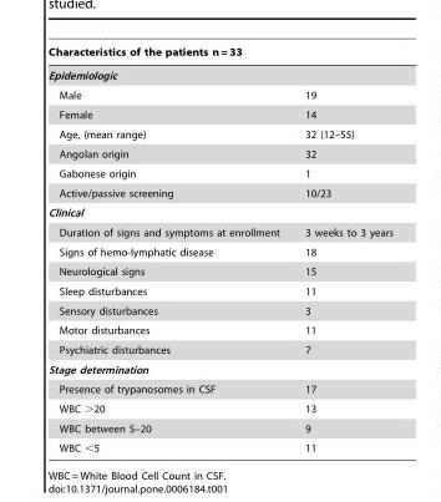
<table><thead><tr><td rowspan="2" colspan="2">Characteristics of the patients n = 33 Epidemiologic</td></tr><tr></tr><tr><td>Male</td><td>19</td></tr></thead><tbody><tr><td>Female</td><td>14</td></tr><tr><td>Age, (mean range)</td><td>32 (12–55)</td></tr><tr><td>Angolan origin</td><td>32</td></tr><tr><td>Gabonese origin</td><td>1</td></tr><tr><td>Active/passive screening</td><td>10/23</td></tr><tr><td colspan="2">Clinical</td></tr><tr><td>Duration of signs and symptoms at enrollment</td><td>3 weeks to 3 years</td></tr><tr><td>Signs of hemo-lymphatic disease</td><td>18</td></tr><tr><td>Neurological signs</td><td>15</td></tr><tr><td>Sleep disturbances</td><td>11</td></tr><tr><td>Sensory disturbances</td><td>3</td></tr><tr><td>Motor disturbances</td><td>11</td></tr><tr><td>Psychiatric disturbances</td><td>7</td></tr><tr><td colspan="2">Stage determination</td></tr><tr><td>Presence of trypanosomes in CSF</td><td>17</td></tr><tr><td>WBC &gt;20</td><td>13</td></tr><tr><td>WBC between 5–20</td><td>9</td></tr><tr><td>WBC &lt;5</td><td>11</td></tr></tbody></table>